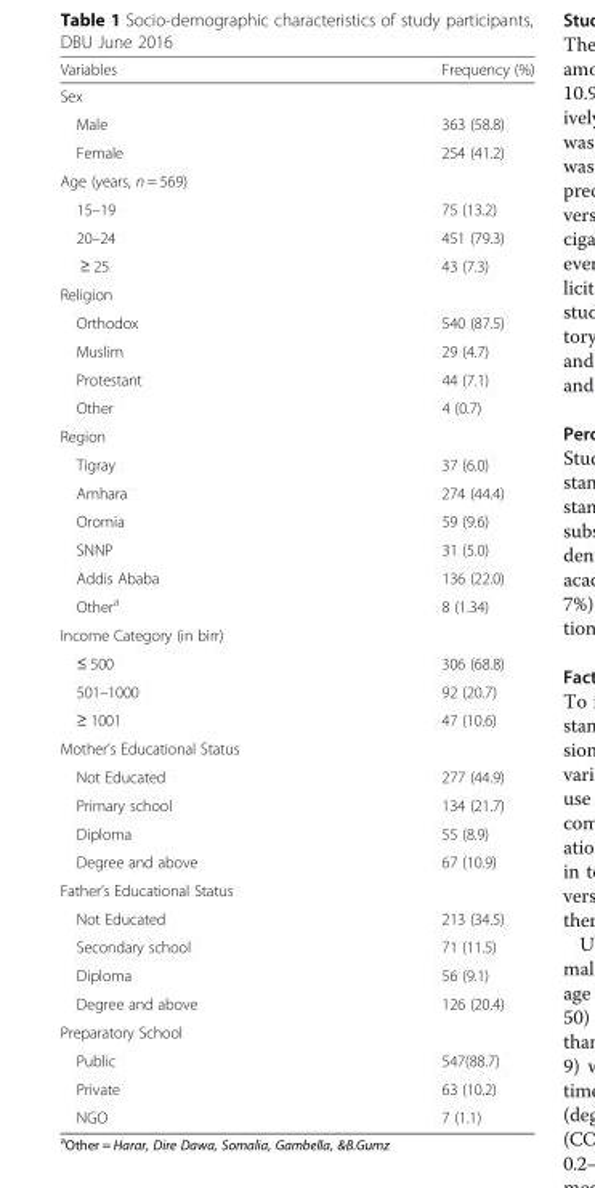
<table><thead><tr><td>Variables</td><td>Frequency (%)</td></tr></thead><tbody><tr><td colspan="2">Sex</td></tr><tr><td>Male</td><td>363 (58.8)</td></tr><tr><td>Female</td><td>254 (41.2)</td></tr><tr><td colspan="2">Age (years, n = 569)</td></tr><tr><td>15–19</td><td>75 (13.2)</td></tr><tr><td>20–24</td><td>451 (79.3)</td></tr><tr><td>≥ 25</td><td>43 (7.3)</td></tr><tr><td colspan="2">Religion</td></tr><tr><td>Orthodox</td><td>540 (87.5)</td></tr><tr><td>Muslim</td><td>29 (4.7)</td></tr><tr><td>Protestant</td><td>44 (7.1)</td></tr><tr><td>Other</td><td>4 (0.7)</td></tr><tr><td colspan="2">Region</td></tr><tr><td>Tigray</td><td>37 (6.0)</td></tr><tr><td>Amhara</td><td>274 (44.4)</td></tr><tr><td>Oromia</td><td>59 (9.6)</td></tr><tr><td>SNNP</td><td>31 (5.0)</td></tr><tr><td>Addis Ababa</td><td>136 (22.0)</td></tr><tr><td>Other<sup>a</sup></td><td>8 (1.34)</td></tr><tr><td colspan="2">Income Category (in birr)</td></tr><tr><td>≤ 500</td><td>306 (68.8)</td></tr><tr><td>501–1000</td><td>92 (20.7)</td></tr><tr><td>≥ 1001</td><td>47 (10.6)</td></tr><tr><td colspan="2">Mother’s Educational Status</td></tr><tr><td>Not Educated</td><td>277 (44.9)</td></tr><tr><td>Primary school</td><td>134 (21.7)</td></tr><tr><td>Diploma</td><td>55 (8.9)</td></tr><tr><td>Degree and above</td><td>67 (10.9)</td></tr><tr><td colspan="2">Father’s Educational Status</td></tr><tr><td>Not Educated</td><td>213 (34.5)</td></tr><tr><td>Secondary school</td><td>71 (11.5)</td></tr><tr><td>Diploma</td><td>56 (9.1)</td></tr><tr><td>Degree and above</td><td>126 (20.4)</td></tr><tr><td colspan="2">Preparatory School</td></tr><tr><td>Public</td><td>547(88.7)</td></tr><tr><td>Private</td><td>63 (10.2)</td></tr><tr><td>NGO</td><td>7 (1.1)</td></tr></tbody></table>